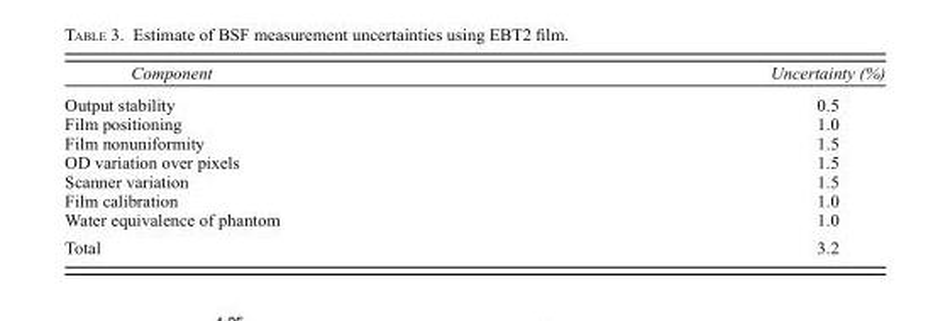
<table><thead><tr><td>Component</td><td>Uncertainty (%)</td></tr></thead><tbody><tr><td>Output stability</td><td>0.5</td></tr><tr><td>Film positioning</td><td>1.0</td></tr><tr><td>Film nonuniformity</td><td>1.5</td></tr><tr><td>OD variation over pixels</td><td>1.5</td></tr><tr><td>Scanner variation</td><td>1.5</td></tr><tr><td>Film calibration</td><td>1.0</td></tr><tr><td>Water equivalence of phantom</td><td>1.0</td></tr><tr><td>Total</td><td>3.2</td></tr></tbody></table>